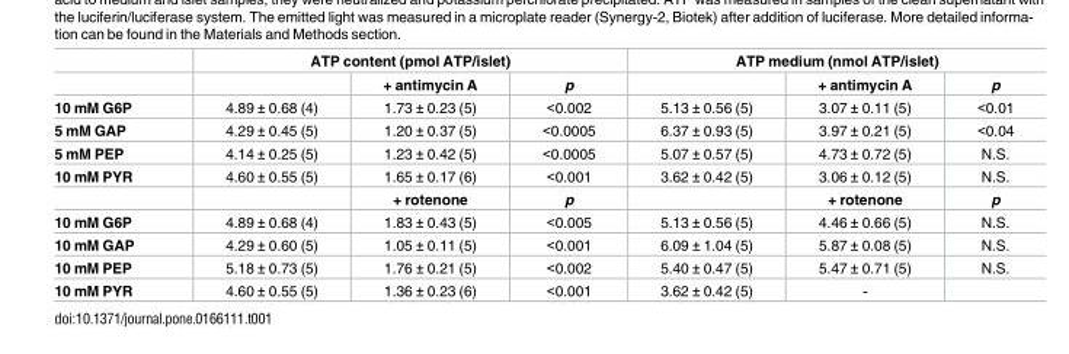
<table><thead><tr><td rowspan="2"></td><td colspan="3">ATP content (pmol ATP/islet)</td><td colspan="3">ATP medium (nmol ATP/islet)</td></tr><tr><td></td><td>+ antimycin A</td><td>p</td><td></td><td>+ antimycin A</td><td>p</td></tr></thead><tbody><tr><td>10 mM G6P</td><td>4.89 ± 0.68 (4)</td><td>1.73 ± 0.23 (5)</td><td>&lt;0.002</td><td>5.13 ± 0.56 (5)</td><td>3.07 ± 0.11 (5)</td><td>&lt;0.01</td></tr><tr><td>5 mM GAP</td><td>4.29 ± 0.45 (5)</td><td>1.20 ± 0.37 (5)</td><td>&lt;0.0005</td><td>6.37 ± 0.93 (5)</td><td>3.97 ± 0.21 (5)</td><td>&lt;0.04</td></tr><tr><td>5 mM PEP</td><td>4.14 ± 0.25 (5)</td><td>1.23 ± 0.42 (5)</td><td>&lt;0.0005</td><td>5.07 ± 0.57 (5)</td><td>4.73 ± 0.72 (5)</td><td>N.S.</td></tr><tr><td rowspan="2">10 mM PYR</td><td>4.60 ± 0.55 (5)</td><td>1.65 ± 0.17 (6)</td><td>&lt;0.001</td><td>3.62 ± 0.42 (5)</td><td>3.06 ± 0.12 (5)</td><td>N.S.</td></tr><tr><td></td><td>+ rotenone</td><td>p</td><td></td><td>+ rotenone</td><td>p</td></tr><tr><td>10 mM G6P</td><td>4.89 ± 0.68 (4)</td><td>1.83 ± 0.43 (5)</td><td>&lt;0.005</td><td>5.13 ± 0.56 (5)</td><td>4.46 ± 0.66 (5)</td><td>N.S.</td></tr><tr><td>10 mM GAP</td><td>4.29 ± 0.60 (5)</td><td>1.05 ± 0.11 (5)</td><td>&lt;0.001</td><td>6.09 ± 1.04 (5)</td><td>5.87 ± 0.08 (5)</td><td>N.S.</td></tr><tr><td>10 mM PEP</td><td>5.18 ± 0.73 (5)</td><td>1.76 ± 0.21 (5)</td><td>&lt;0.002</td><td>5.40 ± 0.47 (5)</td><td>5.47 ± 0.71 (5)</td><td>N.S.</td></tr><tr><td>10 mM PYR</td><td>4.60 ± 0.55 (5)</td><td>1.36 ± 0.23 (6)</td><td>&lt;0.001</td><td>3.62 ± 0.42 (5)</td><td>-</td><td></td></tr></tbody></table>